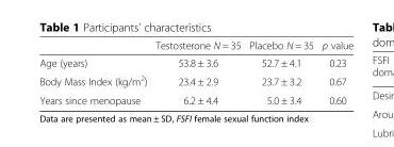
<table><thead><tr><td></td><td>Testosterone N = 35</td><td>Placebo N = 35</td><td>p value</td></tr></thead><tbody><tr><td>Age (years)</td><td>53.8 ± 3.6</td><td>52.7 ± 4.1</td><td>0.23</td></tr><tr><td>Body Mass Index (kg/m<sup>2</sup>)</td><td>23.4 ± 2.9</td><td>23.7 ± 3.2</td><td>0.67</td></tr><tr><td>Years since menopause</td><td>6.2 ± 4.4</td><td>5.0 ± 3.4</td><td>0.60</td></tr></tbody></table>